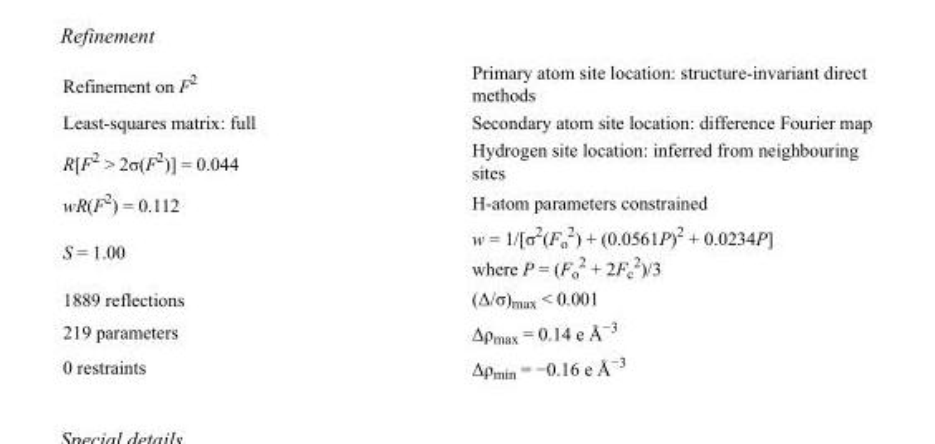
<table><tbody><tr><td>Refinement on F<sup>2</sup></td><td>Primary atom site location: structure-invariant direct methods</td></tr><tr><td>Least-squares matrix: full</td><td>Secondary atom site location: difference Fourier map</td></tr><tr><td>R[F<sup>2</sup> &gt; 2σ(F<sup>2</sup>)] = 0.044</td><td>Hydrogen site location: inferred from neighbouring sites</td></tr><tr><td>wR(F<sup>2</sup>) = 0.112</td><td>H-atom parameters constrained</td></tr><tr><td>S = 1.00</td><td>w = 1/[σ<sup>2</sup>(F<sub>o</sub> <sup>2</sup>) + (0.0561P)<sup>2</sup> + 0.0234P] where P = (F<sub>o</sub> <sup>2</sup> + 2F<sub>c</sub> <sup>2</sup>)/3</td></tr><tr><td>1889 reflections</td><td>(Δ/σ)<sub>max</sub> &lt; 0.001</td></tr><tr><td>219 parameters</td><td>Δρ<sub>max</sub> = 0.14 e Å<sup>−3</sup></td></tr><tr><td>0 restraints</td><td>Δρ<sub>min</sub> = −0.16 e Å<sup>−3</sup></td></tr></tbody></table>